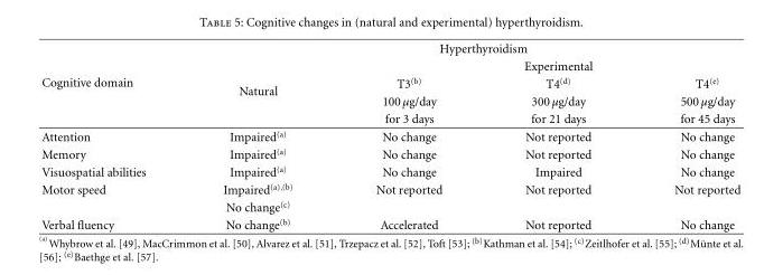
<table><thead><tr><td rowspan="5">Cognitive domain</td><td colspan="4">Hyperthyroidism</td></tr><tr><td rowspan="4">Natural</td><td colspan="3">Experimental</td></tr><tr><td rowspan="3">T3<sup>(b)</sup> 100 μg/day for 3 days</td><td rowspan="3">T4<sup>(d)</sup> 300 μg/day for 21 days</td><td rowspan="3">T4<sup>(e)</sup> 500 μg/day for 45 days</td></tr><tr></tr><tr></tr></thead><tbody><tr><td>Attention</td><td>Impaired<sup>(a)</sup></td><td>No change</td><td>Not reported</td><td>No change</td></tr><tr><td>Memory</td><td>Impaired<sup>(a)</sup></td><td>No change</td><td>Not reported</td><td>No change</td></tr><tr><td>Visuospatial abilities</td><td>Impaired<sup>(a)</sup></td><td>No change</td><td>Impaired</td><td>No change</td></tr><tr><td rowspan="2">Motor speed</td><td>Impaired<sup>(a),(b)</sup></td><td>Not reported</td><td>Not reported</td><td>Not reported</td></tr><tr><td>No change<sup>(c)</sup></td><td></td><td></td><td></td></tr><tr><td>Verbal fluency</td><td>No change<sup>(b)</sup></td><td>Accelerated</td><td>Not reported</td><td>No change</td></tr></tbody></table>